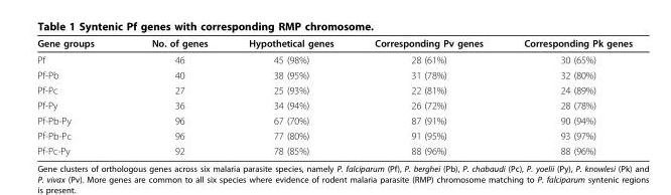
<table><thead><tr><td>Gene groups</td><td>No. of genes</td><td>Hypothetical genes</td><td>Corresponding Pv genes</td><td>Corresponding Pk genes</td></tr></thead><tbody><tr><td>Pf</td><td>46</td><td>45 (98%)</td><td>28 (61%)</td><td>30 (65%)</td></tr><tr><td>Pf-Pb</td><td>40</td><td>38 (95%)</td><td>31 (78%)</td><td>32 (80%)</td></tr><tr><td>Pf-Pc</td><td>27</td><td>25 (93%)</td><td>22 (81%)</td><td>24 (89%)</td></tr><tr><td>Pf-Py</td><td>36</td><td>34 (94%)</td><td>26 (72%)</td><td>28 (78%)</td></tr><tr><td>Pf-Pb-Py</td><td>96</td><td>67 (70%)</td><td>87 (91%)</td><td>90 (94%)</td></tr><tr><td>Pf-Pb-Pc</td><td>96</td><td>77 (80%)</td><td>91 (95%)</td><td>93 (97%)</td></tr><tr><td>Pf-Pc-Py</td><td>92</td><td>78 (85%)</td><td>88 (96%)</td><td>88 (96%)</td></tr></tbody></table>